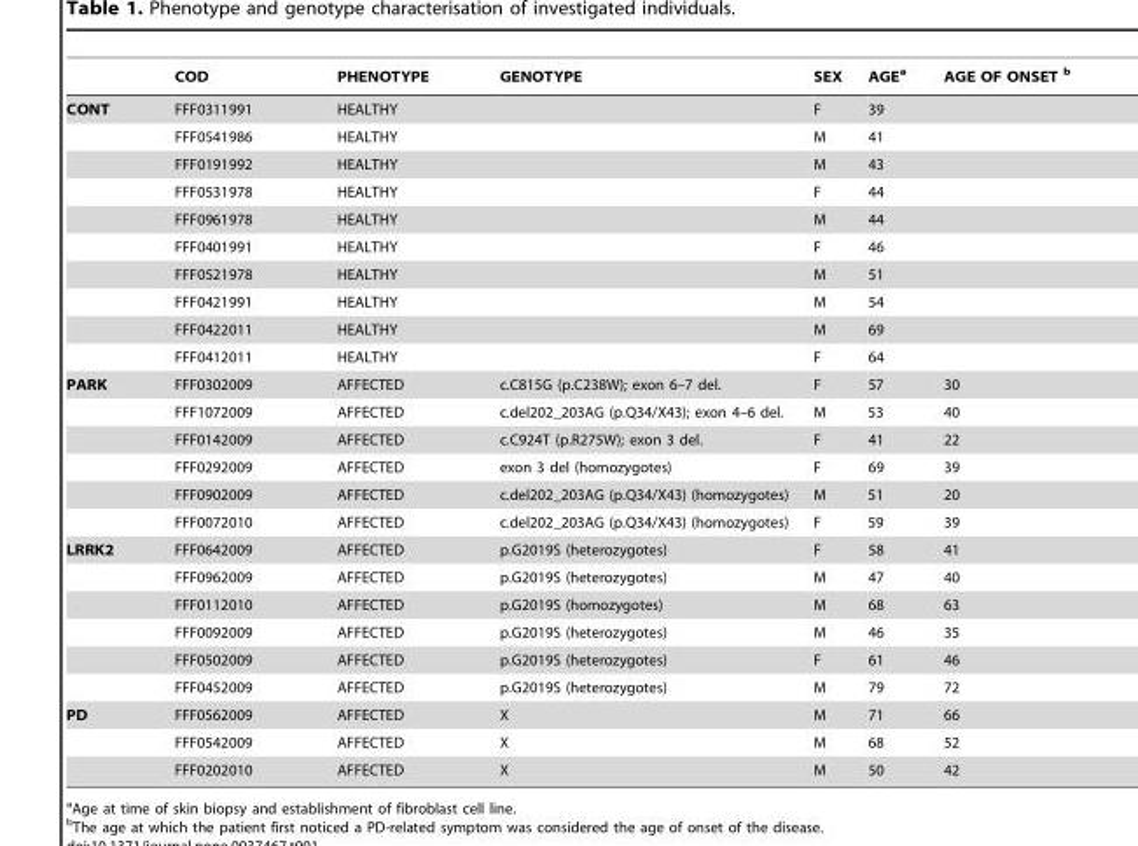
<table><thead><tr><td></td><td>COD</td><td>PHENOTYPE</td><td>GENOTYPE</td><td>SEX</td><td>AGE<sup>a</sup></td><td>AGE OF ONSET b</td></tr></thead><tbody><tr><td rowspan="10">CONT</td><td>FFF0311991</td><td>HEALTHY</td><td></td><td>F</td><td>39</td><td></td></tr><tr><td>FFF0541986</td><td>HEALTHY</td><td></td><td>M</td><td>41</td><td></td></tr><tr><td>FFF0191992</td><td>HEALTHY</td><td></td><td>M</td><td>43</td><td></td></tr><tr><td>FFF0531978</td><td>HEALTHY</td><td></td><td>F</td><td>44</td><td></td></tr><tr><td>FFF0961978</td><td>HEALTHY</td><td></td><td>M</td><td>44</td><td></td></tr><tr><td>FFF0401991</td><td>HEALTHY</td><td></td><td>F</td><td>46</td><td></td></tr><tr><td>FFF0521978</td><td>HEALTHY</td><td></td><td>M</td><td>51</td><td></td></tr><tr><td>FFF0421991</td><td>HEALTHY</td><td></td><td>M</td><td>54</td><td></td></tr><tr><td>FFF0422011</td><td>HEALTHY</td><td></td><td>M</td><td>69</td><td></td></tr><tr><td>FFF0412011</td><td>HEALTHY</td><td></td><td>F</td><td>64</td><td></td></tr><tr><td rowspan="6">PARK</td><td>FFF0302009</td><td>AFFECTED</td><td>c.C815G (p.C238W); exon 6–7 del.</td><td>F</td><td>57</td><td>30</td></tr><tr><td>FFF1072009</td><td>AFFECTED</td><td>c.del202_203AG (p.Q34/X43); exon 4–6 del.</td><td>M</td><td>53</td><td>40</td></tr><tr><td>FFF0142009</td><td>AFFECTED</td><td>c.C924T (p.R275W); exon 3 del.</td><td>F</td><td>41</td><td>22</td></tr><tr><td>FFF0292009</td><td>AFFECTED</td><td>exon 3 del (homozygotes)</td><td>F</td><td>69</td><td>39</td></tr><tr><td>FFF0902009</td><td>AFFECTED</td><td>c.del202_203AG (p.Q34/X43) (homozygotes)</td><td>M</td><td>51</td><td>20</td></tr><tr><td>FFF0072010</td><td>AFFECTED</td><td>c.del202_203AG (p.Q34/X43) (homozygotes)</td><td>F</td><td>59</td><td>39</td></tr><tr><td rowspan="6">LRRK2</td><td>FFF0642009</td><td>AFFECTED</td><td>p.G2019S (heterozygotes)</td><td>F</td><td>58</td><td>41</td></tr><tr><td>FFF0962009</td><td>AFFECTED</td><td>p.G2019S (heterozygotes)</td><td>M</td><td>47</td><td>40</td></tr><tr><td>FFF0112010</td><td>AFFECTED</td><td>p.G2019S (homozygotes)</td><td>M</td><td>68</td><td>63</td></tr><tr><td>FFF0092009</td><td>AFFECTED</td><td>p.G2019S (heterozygotes)</td><td>M</td><td>46</td><td>35</td></tr><tr><td>FFF0502009</td><td>AFFECTED</td><td>p.G2019S (heterozygotes)</td><td>F</td><td>61</td><td>46</td></tr><tr><td>FFF0452009</td><td>AFFECTED</td><td>p.G2019S (heterozygotes)</td><td>M</td><td>79</td><td>72</td></tr><tr><td rowspan="3">PD</td><td>FFF0562009</td><td>AFFECTED</td><td>X</td><td>M</td><td>71</td><td>66</td></tr><tr><td>FFF0542009</td><td>AFFECTED</td><td>X</td><td>M</td><td>68</td><td>52</td></tr><tr><td>FFF0202010</td><td>AFFECTED</td><td>X</td><td>M</td><td>50</td><td>42</td></tr></tbody></table>